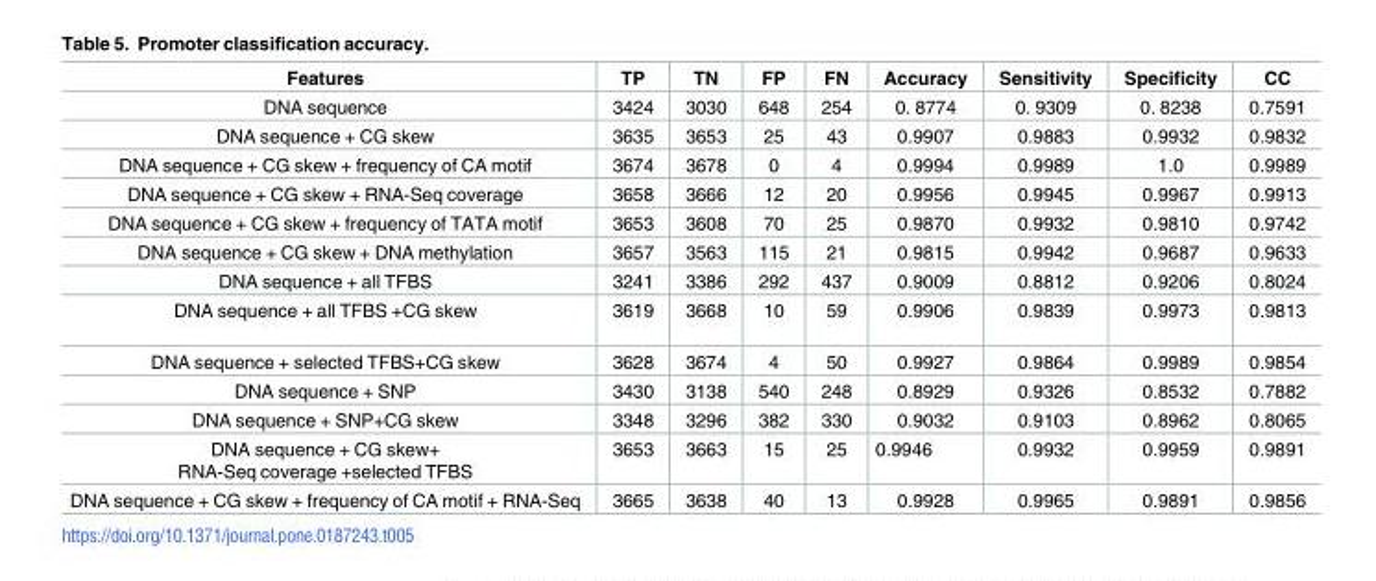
<table><thead><tr><td>Features</td><td>TP</td><td>TN</td><td>FP</td><td>FN</td><td>Accuracy</td><td>Sensitivity</td><td>Specificity</td><td>CC</td></tr></thead><tbody><tr><td>DNA sequence</td><td>3424</td><td>3030</td><td>648</td><td>254</td><td>0. 8774</td><td>0. 9309</td><td>0. 8238</td><td>0.7591</td></tr><tr><td>DNA sequence + CG skew</td><td>3635</td><td>3653</td><td>25</td><td>43</td><td>0.9907</td><td>0.9883</td><td>0.9932</td><td>0.9832</td></tr><tr><td>DNA sequence + CG skew + frequency of CA motif</td><td>3674</td><td>3678</td><td>0</td><td>4</td><td>0.9994</td><td>0.9989</td><td>1.0</td><td>0.9989</td></tr><tr><td>DNA sequence + CG skew + RNA-Seq coverage</td><td>3658</td><td>3666</td><td>12</td><td>20</td><td>0.9956</td><td>0.9945</td><td>0.9967</td><td>0.9913</td></tr><tr><td>DNA sequence + CG skew + frequency of TATA motif</td><td>3653</td><td>3608</td><td>70</td><td>25</td><td>0.9870</td><td>0.9932</td><td>0.9810</td><td>0.9742</td></tr><tr><td>DNA sequence + CG skew + DNA methylation</td><td>3657</td><td>3563</td><td>115</td><td>21</td><td>0.9815</td><td>0.9942</td><td>0.9687</td><td>0.9633</td></tr><tr><td>DNA sequence + all TFBS</td><td>3241</td><td>3386</td><td>292</td><td>437</td><td>0.9009</td><td>0.8812</td><td>0.9206</td><td>0.8024</td></tr><tr><td>DNA sequence + all TFBS +CG skew</td><td>3619</td><td>3668</td><td>10</td><td>59</td><td>0.9906</td><td>0.9839</td><td>0.9973</td><td>0.9813</td></tr><tr><td>DNA sequence + selected TFBS+CG skew</td><td>3628</td><td>3674</td><td>4</td><td>50</td><td>0.9927</td><td>0.9864</td><td>0.9989</td><td>0.9854</td></tr><tr><td>DNA sequence + SNP</td><td>3430</td><td>3138</td><td>540</td><td>248</td><td>0.8929</td><td>0.9326</td><td>0.8532</td><td>0.7882</td></tr><tr><td>DNA sequence + SNP+CG skew</td><td>3348</td><td>3296</td><td>382</td><td>330</td><td>0.9032</td><td>0.9103</td><td>0.8962</td><td>0.8065</td></tr><tr><td>DNA sequence + CG skew+ RNA-Seq coverage +selected TFBS</td><td>3653</td><td>3663</td><td>15</td><td>25</td><td>0.9946</td><td>0.9932</td><td>0.9959</td><td>0.9891</td></tr><tr><td>DNA sequence + CG skew + frequency of CA motif + RNA-Seq</td><td>3665</td><td>3638</td><td>40</td><td>13</td><td>0.9928</td><td>0.9965</td><td>0.9891</td><td>0.9856</td></tr></tbody></table>